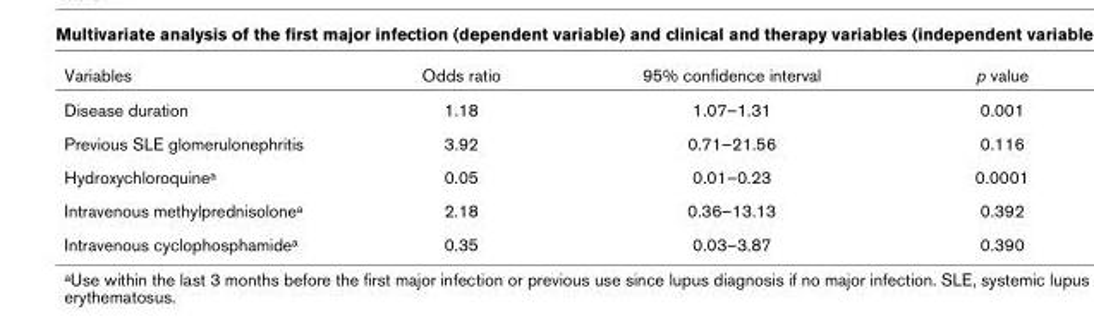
<table><thead><tr><td>Variables</td><td>Odds ratio</td><td>95% confidence interval</td><td>p value</td></tr></thead><tbody><tr><td>Disease duration</td><td>1.18</td><td>1.07–1.31</td><td>0.001</td></tr><tr><td>Previous SLE glomerulonephritis</td><td>3.92</td><td>0.71–21.56</td><td>0.116</td></tr><tr><td>Hydroxychloroquinea</td><td>0.05</td><td>0.01–0.23</td><td>0.0001</td></tr><tr><td>Intravenous methylprednisolonea</td><td>2.18</td><td>0.36–13.13</td><td>0.392</td></tr><tr><td>Intravenous cyclophosphamidea</td><td>0.35</td><td>0.03–3.87</td><td>0.390</td></tr></tbody></table>